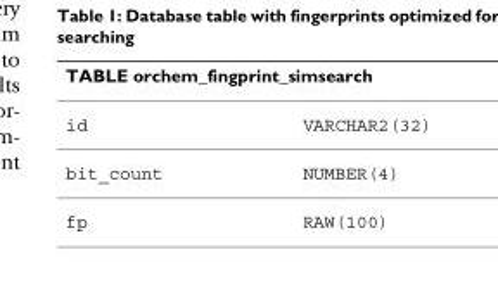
<table><thead><tr><td colspan="2">TABLE orchem_fingprint_simsearch</td></tr><tr><td>id</td><td>VARCHAR2(32)</td></tr></thead><tbody><tr><td>bit_count</td><td>NUMBER(4)</td></tr><tr><td>fp</td><td>RAW(100)</td></tr></tbody></table>